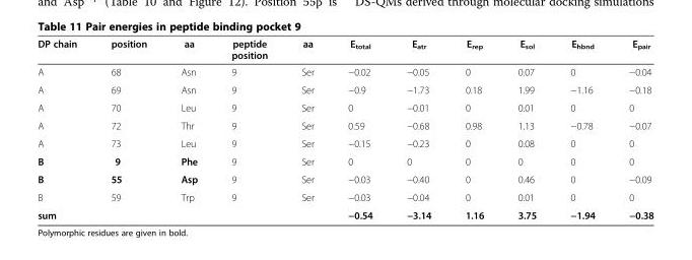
<table><thead><tr><td>DP chain</td><td>position</td><td>aa</td><td>peptide position</td><td>aa</td><td>E<sub>total</sub></td><td>E<sub>atr</sub></td><td>E<sub>rep</sub></td><td>E<sub>sol</sub></td><td>E<sub>hbnd</sub></td><td>E<sub>pair</sub></td></tr></thead><tbody><tr><td>A</td><td>68</td><td>Asn</td><td>9</td><td>Ser</td><td>−0.02</td><td>−0.05</td><td>0</td><td>0.07</td><td>0</td><td>−0.04</td></tr><tr><td>A</td><td>69</td><td>Asn</td><td>9</td><td>Ser</td><td>−0.9</td><td>−1.73</td><td>0.18</td><td>1.99</td><td>−1.16</td><td>−0.18</td></tr><tr><td>A</td><td>70</td><td>Leu</td><td>9</td><td>Ser</td><td>0</td><td>−0.01</td><td>0</td><td>0.01</td><td>0</td><td>0</td></tr><tr><td>A</td><td>72</td><td>Thr</td><td>9</td><td>Ser</td><td>0.59</td><td>−0.68</td><td>0.98</td><td>1.13</td><td>−0.78</td><td>−0.07</td></tr><tr><td>A</td><td>73</td><td>Leu</td><td>9</td><td>Ser</td><td>−0.15</td><td>−0.23</td><td>0</td><td>0.08</td><td>0</td><td>0</td></tr><tr><td>B</td><td>9</td><td>Phe</td><td>9</td><td>Ser</td><td>0</td><td>0</td><td>0</td><td>0</td><td>0</td><td>0</td></tr><tr><td>B</td><td>55</td><td>Asp</td><td>9</td><td>Ser</td><td>−0.03</td><td>−0.40</td><td>0</td><td>0.46</td><td>0</td><td>−0.09</td></tr><tr><td>B</td><td>59</td><td>Trp</td><td>9</td><td>Ser</td><td>−0.03</td><td>−0.04</td><td>0</td><td>0.01</td><td>0</td><td>0</td></tr><tr><td>sum</td><td></td><td></td><td></td><td></td><td>−0.54</td><td>−3.14</td><td>1.16</td><td>3.75</td><td>−1.94</td><td>−0.38</td></tr></tbody></table>